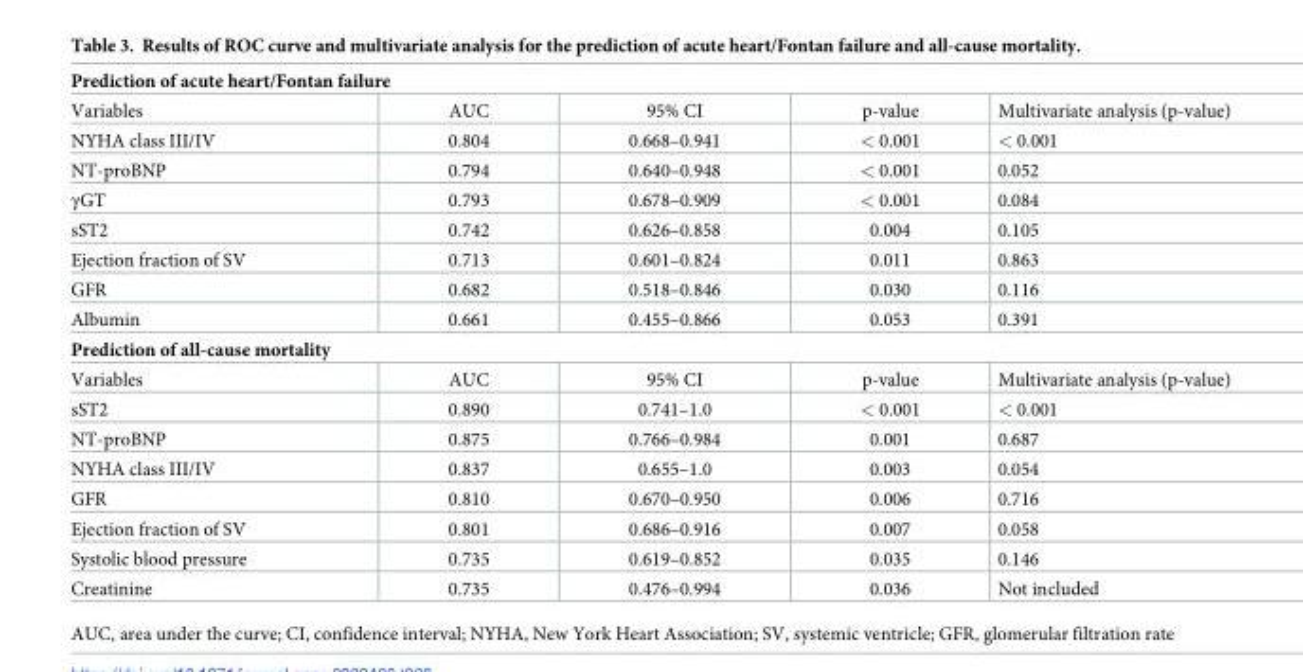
<table><tbody><tr><td colspan="5">Prediction of acute heart/Fontan failure</td></tr><tr><td>Variables</td><td>AUC</td><td>95% CI</td><td>p-value</td><td>Multivariate analysis (p-value)</td></tr><tr><td>NYHA class III/IV</td><td>0.804</td><td>0.668–0.941</td><td>&lt; 0.001</td><td>&lt; 0.001</td></tr><tr><td>NT-proBNP</td><td>0.794</td><td>0.640–0.948</td><td>&lt; 0.001</td><td>0.052</td></tr><tr><td>γGT</td><td>0.793</td><td>0.678–0.909</td><td>&lt; 0.001</td><td>0.084</td></tr><tr><td>sST2</td><td>0.742</td><td>0.626–0.858</td><td>0.004</td><td>0.105</td></tr><tr><td>Ejection fraction of SV</td><td>0.713</td><td>0.601–0.824</td><td>0.011</td><td>0.863</td></tr><tr><td>GFR</td><td>0.682</td><td>0.518–0.846</td><td>0.030</td><td>0.116</td></tr><tr><td>Albumin</td><td>0.661</td><td>0.455–0.866</td><td>0.053</td><td>0.391</td></tr><tr><td colspan="5">Prediction of all-cause mortality</td></tr><tr><td>Variables</td><td>AUC</td><td>95% CI</td><td>p-value</td><td>Multivariate analysis (p-value)</td></tr><tr><td>sST2</td><td>0.890</td><td>0.741–1.0</td><td>&lt; 0.001</td><td>&lt; 0.001</td></tr><tr><td>NT-proBNP</td><td>0.875</td><td>0.766–0.984</td><td>0.001</td><td>0.687</td></tr><tr><td>NYHA class III/IV</td><td>0.837</td><td>0.655–1.0</td><td>0.003</td><td>0.054</td></tr><tr><td>GFR</td><td>0.810</td><td>0.670–0.950</td><td>0.006</td><td>0.716</td></tr><tr><td>Ejection fraction of SV</td><td>0.801</td><td>0.686–0.916</td><td>0.007</td><td>0.058</td></tr><tr><td>Systolic blood pressure</td><td>0.735</td><td>0.619–0.852</td><td>0.035</td><td>0.146</td></tr><tr><td>Creatinine</td><td>0.735</td><td>0.476–0.994</td><td>0.036</td><td>Not included</td></tr></tbody></table>